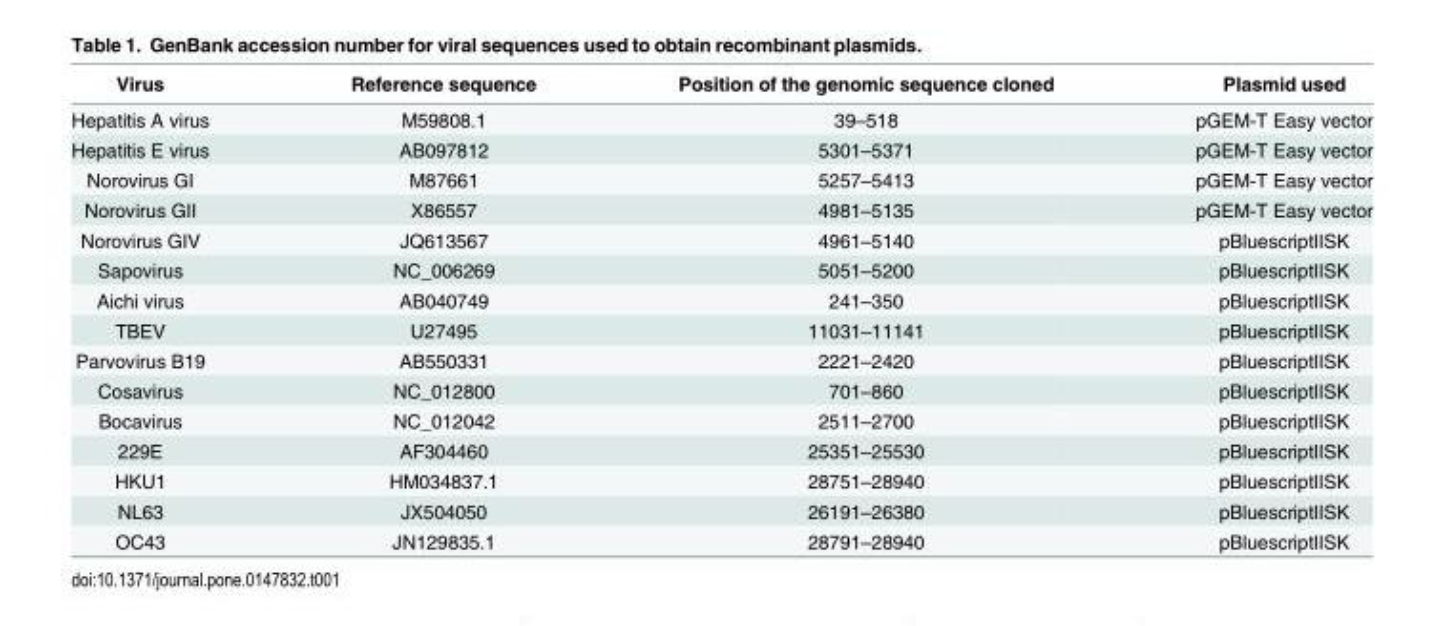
<table><thead><tr><td>Virus</td><td>Reference sequence</td><td>Position of the genomic sequence cloned</td><td>Plasmid used</td></tr></thead><tbody><tr><td>Hepatitis A virus</td><td>M59808.1</td><td>39–518</td><td>pGEM-T Easy vector</td></tr><tr><td>Hepatitis E virus</td><td>AB097812</td><td>5301–5371</td><td>pGEM-T Easy vector</td></tr><tr><td>Norovirus GI</td><td>M87661</td><td>5257–5413</td><td>pGEM-T Easy vector</td></tr><tr><td>Norovirus GII</td><td>X86557</td><td>4981–5135</td><td>pGEM-T Easy vector</td></tr><tr><td>Norovirus GIV</td><td>JQ613567</td><td>4961–5140</td><td>pBluescriptIISK</td></tr><tr><td>Sapovirus</td><td>NC_006269</td><td>5051–5200</td><td>pBluescriptIISK</td></tr><tr><td>Aichi virus</td><td>AB040749</td><td>241–350</td><td>pBluescriptIISK</td></tr><tr><td>TBEV</td><td>U27495</td><td>11031–11141</td><td>pBluescriptIISK</td></tr><tr><td>Parvovirus B19</td><td>AB550331</td><td>2221–2420</td><td>pBluescriptIISK</td></tr><tr><td>Cosavirus</td><td>NC_012800</td><td>701–860</td><td>pBluescriptIISK</td></tr><tr><td>Bocavirus</td><td>NC_012042</td><td>2511–2700</td><td>pBluescriptIISK</td></tr><tr><td>229E</td><td>AF304460</td><td>25351–25530</td><td>pBluescriptIISK</td></tr><tr><td>HKU1</td><td>HM034837.1</td><td>28751–28940</td><td>pBluescriptIISK</td></tr><tr><td>NL63</td><td>JX504050</td><td>26191–26380</td><td>pBluescriptIISK</td></tr><tr><td>OC43</td><td>JN129835.1</td><td>28791–28940</td><td>pBluescriptIISK</td></tr></tbody></table>